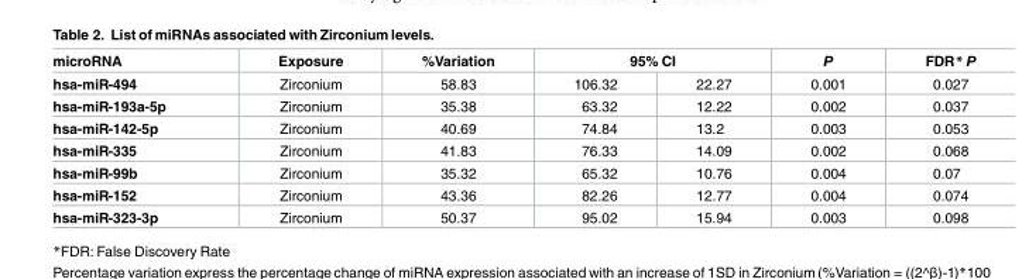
<table><thead><tr><td rowspan="2">microRNA hsa-miR-494</td><td rowspan="2">Exposure Zirconium</td><td rowspan="2">%Variation 58.83</td><td colspan="2">95% CI</td><td rowspan="2">P 0.001</td><td rowspan="2">FDR* P 0.027</td></tr><tr><td>106.32</td><td>22.27</td></tr></thead><tbody><tr><td>hsa-miR-193a-5p</td><td>Zirconium</td><td>35.38</td><td>63.32</td><td>12.22</td><td>0.002</td><td>0.037</td></tr><tr><td>hsa-miR-142-5p</td><td>Zirconium</td><td>40.69</td><td>74.84</td><td>13.2</td><td>0.003</td><td>0.053</td></tr><tr><td>hsa-miR-335</td><td>Zirconium</td><td>41.83</td><td>76.33</td><td>14.09</td><td>0.002</td><td>0.068</td></tr><tr><td>hsa-miR-99b</td><td>Zirconium</td><td>35.32</td><td>65.32</td><td>10.76</td><td>0.004</td><td>0.07</td></tr><tr><td>hsa-miR-152</td><td>Zirconium</td><td>43.36</td><td>82.26</td><td>12.77</td><td>0.004</td><td>0.074</td></tr><tr><td>hsa-miR-323-3p</td><td>Zirconium</td><td>50.37</td><td>95.02</td><td>15.94</td><td>0.003</td><td>0.098</td></tr></tbody></table>